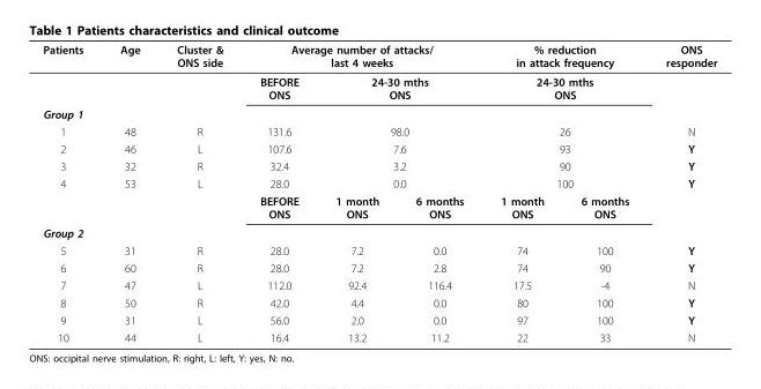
<table><thead><tr><td rowspan="3">Patients Group 1</td><td rowspan="3">Age</td><td rowspan="3">Cluster &amp; ONS side</td><td colspan="3">Average number of attacks/ last 4 weeks</td><td rowspan="2" colspan="2">% reduction in attack frequency 24-30 mths ONS</td><td rowspan="3">ONS responder</td></tr><tr><td rowspan="2">BEFORE ONS</td><td colspan="2">24-30 mths ONS</td></tr><tr><td></td><td></td><td></td><td></td></tr></thead><tbody><tr><td>1</td><td>48</td><td>R</td><td>131.6</td><td colspan="2">98.0</td><td colspan="2">26</td><td>N</td></tr><tr><td>2</td><td>46</td><td>L</td><td>107.6</td><td colspan="2">7.6</td><td colspan="2">93</td><td>Y</td></tr><tr><td>3</td><td>32</td><td>R</td><td>32.4</td><td colspan="2">3.2</td><td colspan="2">90</td><td>Y</td></tr><tr><td rowspan="2">4</td><td>53</td><td>L</td><td>28.0</td><td colspan="2">0.0</td><td colspan="2">100</td><td>Y</td></tr><tr><td></td><td></td><td>BEFORE ONS</td><td>1 month ONS</td><td>6 months ONS</td><td>1 month ONS</td><td>6 months ONS</td><td></td></tr><tr><td colspan="9">Group 2</td></tr><tr><td>5</td><td>31</td><td>R</td><td>28.0</td><td>7.2</td><td>0.0</td><td>74</td><td>100</td><td>Y</td></tr><tr><td>6</td><td>60</td><td>R</td><td>28.0</td><td>7.2</td><td>2.8</td><td>74</td><td>90</td><td>Y</td></tr><tr><td>7</td><td>47</td><td>L</td><td>112.0</td><td>92.4</td><td>116.4</td><td>17.5</td><td>-4</td><td>N</td></tr><tr><td>8</td><td>50</td><td>R</td><td>42.0</td><td>4.4</td><td>0.0</td><td>80</td><td>100</td><td>Y</td></tr><tr><td>9</td><td>31</td><td>L</td><td>56.0</td><td>2.0</td><td>0.0</td><td>97</td><td>100</td><td>Y</td></tr><tr><td>10</td><td>44</td><td>L</td><td>16.4</td><td>13.2</td><td>11.2</td><td>22</td><td>33</td><td>N</td></tr></tbody></table>